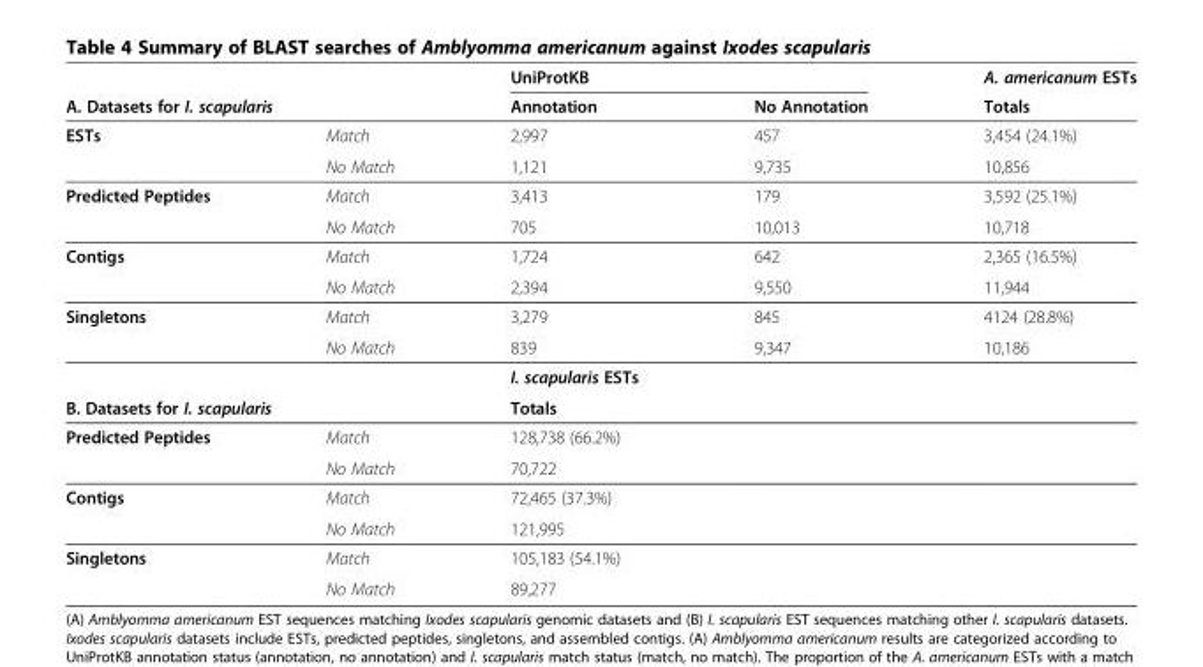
<table><thead><tr><td rowspan="2">A. Datasets for I. scapularis</td><td rowspan="2"></td><td colspan="2">UniProtKB</td><td rowspan="2">A. americanum ESTs Totals</td></tr><tr><td>Annotation</td><td>No Annotation</td></tr></thead><tbody><tr><td rowspan="2">ESTs</td><td>Match</td><td>2,997</td><td>457</td><td>3,454 (24.1%)</td></tr><tr><td>No Match</td><td>1,121</td><td>9,735</td><td>10,856</td></tr><tr><td rowspan="2">Predicted Peptides</td><td>Match</td><td>3,413</td><td>179</td><td>3,592 (25.1%)</td></tr><tr><td>No Match</td><td>705</td><td>10,013</td><td>10,718</td></tr><tr><td rowspan="2">Contigs</td><td>Match</td><td>1,724</td><td>642</td><td>2,365 (16.5%)</td></tr><tr><td>No Match</td><td>2,394</td><td>9,550</td><td>11,944</td></tr><tr><td rowspan="3">Singletons</td><td>Match</td><td>3,279</td><td>845</td><td>4124 (28.8%)</td></tr><tr><td>No Match</td><td>839</td><td>9,347</td><td>10,186</td></tr><tr><td></td><td>I. scapularis ESTs</td><td></td><td></td></tr><tr><td>B. Datasets for I. scapularis</td><td></td><td>Totals</td><td></td><td></td></tr><tr><td rowspan="2">Predicted Peptides</td><td>Match</td><td>128,738 (66.2%)</td><td></td><td></td></tr><tr><td>No Match</td><td>70,722</td><td></td><td></td></tr><tr><td rowspan="2">Contigs</td><td>Match</td><td>72,465 (37.3%)</td><td></td><td></td></tr><tr><td>No Match</td><td>121,995</td><td></td><td></td></tr><tr><td rowspan="2">Singletons</td><td>Match</td><td>105,183 (54.1%)</td><td></td><td></td></tr><tr><td>No Match</td><td>89,277</td><td></td><td></td></tr></tbody></table>